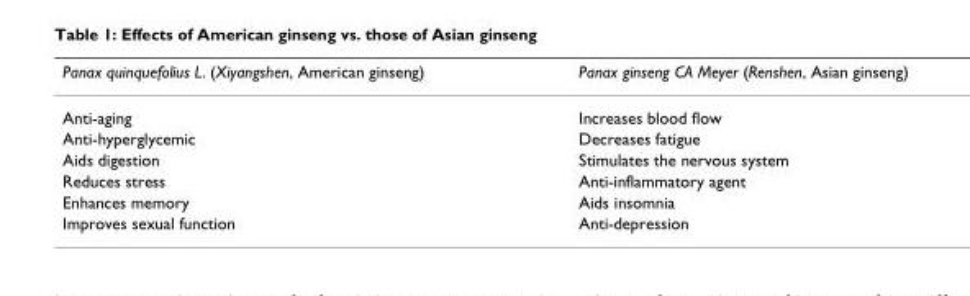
<table><thead><tr><td>Panax quinquefolius L. (Xiyangshen, American ginseng)</td><td>Panax ginseng CA Meyer (Renshen, Asian ginseng)</td></tr></thead><tbody><tr><td>Anti-aging</td><td>Increases blood flow</td></tr><tr><td>Anti-hyperglycemic</td><td>Decreases fatigue</td></tr><tr><td>Aids digestion</td><td>Stimulates the nervous system</td></tr><tr><td>Reduces stress</td><td>Anti-inflammatory agent</td></tr><tr><td>Enhances memory</td><td>Aids insomnia</td></tr><tr><td>Improves sexual function</td><td>Anti-depression</td></tr></tbody></table>